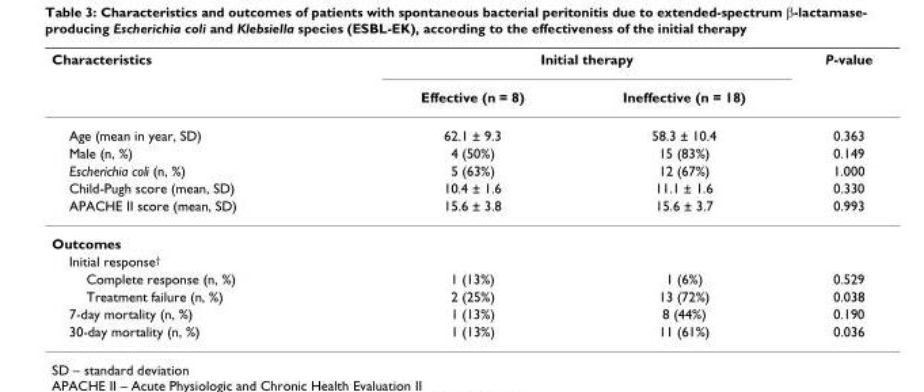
<table><thead><tr><td rowspan="2">Characteristics</td><td colspan="2">Initial therapy</td><td rowspan="2">P-value</td></tr><tr><td>Effective (n = 8)</td><td>Ineffective (n = 18)</td></tr></thead><tbody><tr><td>Age (mean in year, SD)</td><td>62.1 ± 9.3</td><td>58.3 ± 10.4</td><td>0.363</td></tr><tr><td>Male (n, %)</td><td>4 (50%)</td><td>15 (83%)</td><td>0.149</td></tr><tr><td>Escherichia coli (n, %)</td><td>5 (63%)</td><td>12 (67%)</td><td>1.000</td></tr><tr><td>Child-Pugh score (mean, SD)</td><td>10.4 ± 1.6</td><td>11.1 ± 1.6</td><td>0.330</td></tr><tr><td>APACHE II score (mean, SD)</td><td>15.6 ± 3.8</td><td>15.6 ± 3.7</td><td>0.993</td></tr><tr><td colspan="4">Outcomes</td></tr><tr><td colspan="4">Initial response<sup>†</sup></td></tr><tr><td>Complete response (n, %)</td><td>1 (13%)</td><td>1 (6%)</td><td>0.529</td></tr><tr><td>Treatment failure (n, %)</td><td>2 (25%)</td><td>13 (72%)</td><td>0.038</td></tr><tr><td>7-day mortality (n, %)</td><td>1 (13%)</td><td>8 (44%)</td><td>0.190</td></tr><tr><td>30-day mortality (n, %)</td><td>1 (13%)</td><td>11 (61%)</td><td>0.036</td></tr></tbody></table>